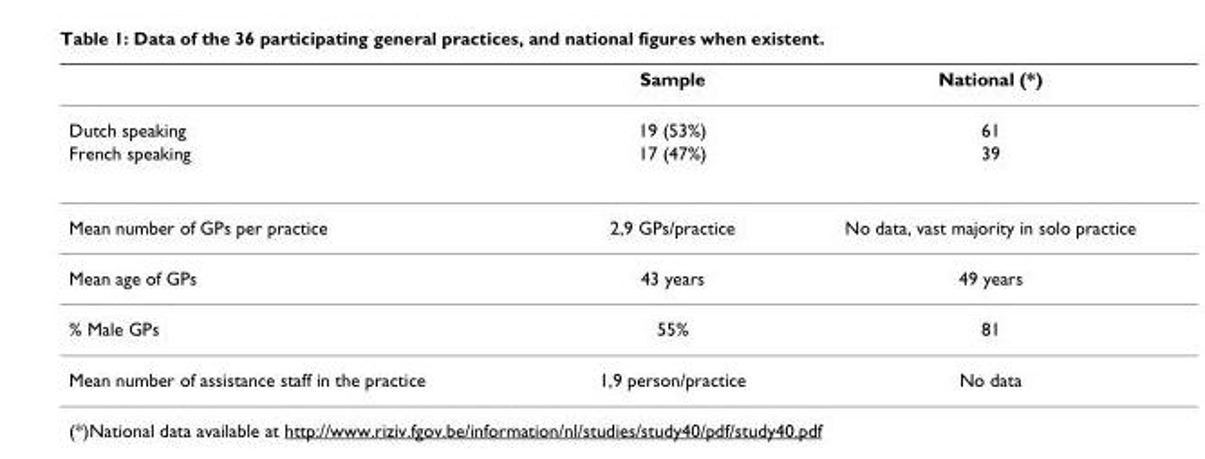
<table><thead><tr><td></td><td>Sample</td><td>National (*)</td></tr></thead><tbody><tr><td>Dutch speaking</td><td>19 (53%)</td><td>61</td></tr><tr><td>French speaking</td><td>17 (47%)</td><td>39</td></tr><tr><td>Mean number of GPs per practice</td><td>2,9 GPs/practice</td><td>No data, vast majority in solo practice</td></tr><tr><td>Mean age of GPs</td><td>43 years</td><td>49 years</td></tr><tr><td>% Male GPs</td><td>55%</td><td>81</td></tr><tr><td>Mean number of assistance staff in the practice</td><td>1,9 person/practice</td><td>No data</td></tr></tbody></table>